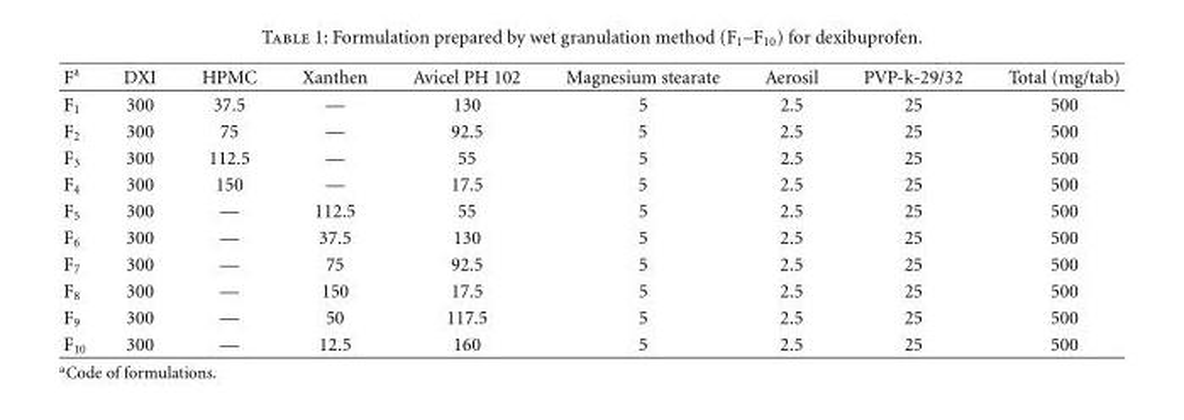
<table><thead><tr><td>F<sup>a</sup></td><td>DXI</td><td>HPMC</td><td>Xanthen</td><td>Avicel PH 102</td><td>Magnesium stearate</td><td>Aerosil</td><td>PVP-k-29/32</td><td>Total (mg/tab)</td></tr></thead><tbody><tr><td>F<sub>1</sub></td><td>300</td><td>37.5</td><td>—</td><td>130</td><td>5</td><td>2.5</td><td>25</td><td>500</td></tr><tr><td>F<sub>2</sub></td><td>300</td><td>75</td><td>—</td><td>92.5</td><td>5</td><td>2.5</td><td>25</td><td>500</td></tr><tr><td>F<sub>3</sub></td><td>300</td><td>112.5</td><td>—</td><td>55</td><td>5</td><td>2.5</td><td>25</td><td>500</td></tr><tr><td>F<sub>4</sub></td><td>300</td><td>150</td><td>—</td><td>17.5</td><td>5</td><td>2.5</td><td>25</td><td>500</td></tr><tr><td>F<sub>5</sub></td><td>300</td><td>—</td><td>112.5</td><td>55</td><td>5</td><td>2.5</td><td>25</td><td>500</td></tr><tr><td>F<sub>6</sub></td><td>300</td><td>—</td><td>37.5</td><td>130</td><td>5</td><td>2.5</td><td>25</td><td>500</td></tr><tr><td>F<sub>7</sub></td><td>300</td><td>—</td><td>75</td><td>92.5</td><td>5</td><td>2.5</td><td>25</td><td>500</td></tr><tr><td>F<sub>8</sub></td><td>300</td><td>—</td><td>150</td><td>17.5</td><td>5</td><td>2.5</td><td>25</td><td>500</td></tr><tr><td>F<sub>9</sub></td><td>300</td><td>—</td><td>50</td><td>117.5</td><td>5</td><td>2.5</td><td>25</td><td>500</td></tr><tr><td>F<sub>10</sub></td><td>300</td><td>—</td><td>12.5</td><td>160</td><td>5</td><td>2.5</td><td>25</td><td>500</td></tr></tbody></table>